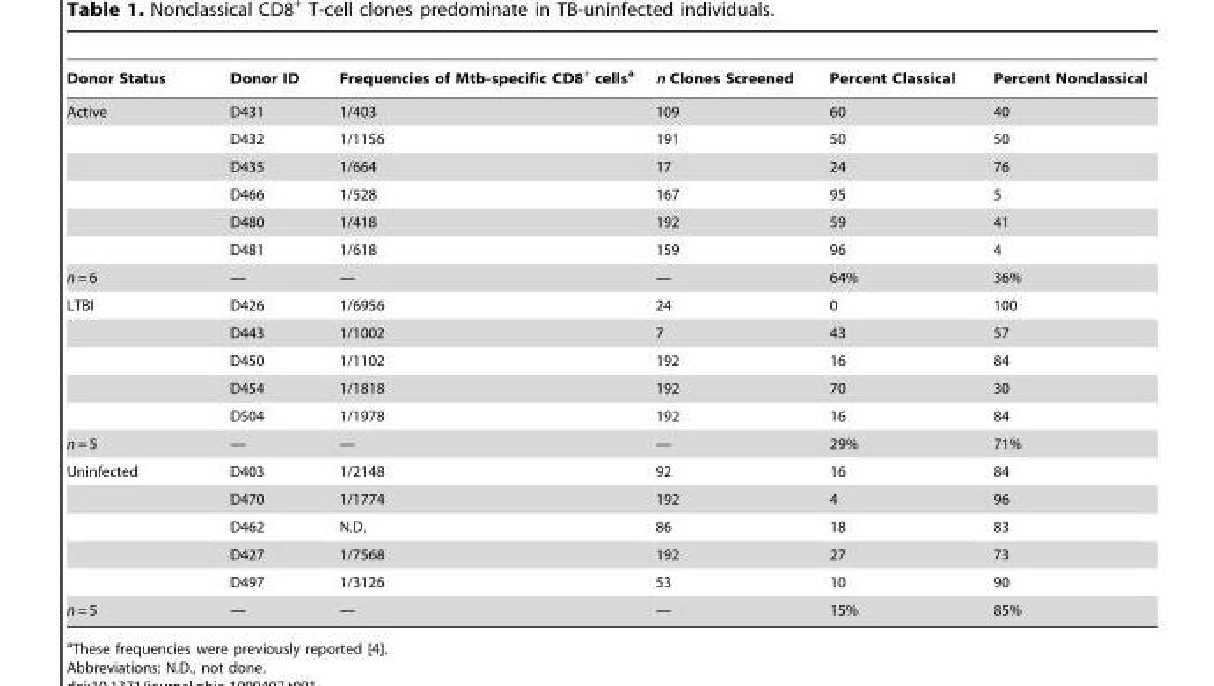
<table><thead><tr><td>Donor Status</td><td>Donor ID</td><td>Frequencies of Mtb-specific CD8<sup>+</sup> cells<sup>a</sup></td><td>n Clones Screened</td><td>Percent Classical</td><td>Percent Nonclassical</td></tr></thead><tbody><tr><td rowspan="6">Active</td><td>D431</td><td>1/403</td><td>109</td><td>60</td><td>40</td></tr><tr><td>D432</td><td>1/1156</td><td>191</td><td>50</td><td>50</td></tr><tr><td>D435</td><td>1/664</td><td>17</td><td>24</td><td>76</td></tr><tr><td>D466</td><td>1/528</td><td>167</td><td>95</td><td>5</td></tr><tr><td>D480</td><td>1/418</td><td>192</td><td>59</td><td>41</td></tr><tr><td>D481</td><td>1/618</td><td>159</td><td>96</td><td>4</td></tr><tr><td>n = 6</td><td>—</td><td>—</td><td>—</td><td>64%</td><td>36%</td></tr><tr><td rowspan="5">LTBI</td><td>D426</td><td>1/6956</td><td>24</td><td>0</td><td>100</td></tr><tr><td>D443</td><td>1/1002</td><td>7</td><td>43</td><td>57</td></tr><tr><td>D450</td><td>1/1102</td><td>192</td><td>16</td><td>84</td></tr><tr><td>D454</td><td>1/1818</td><td>192</td><td>70</td><td>30</td></tr><tr><td>D504</td><td>1/1978</td><td>192</td><td>16</td><td>84</td></tr><tr><td>n = 5</td><td>—</td><td>—</td><td>—</td><td>29%</td><td>71%</td></tr><tr><td rowspan="5">Uninfected</td><td>D403</td><td>1/2148</td><td>92</td><td>16</td><td>84</td></tr><tr><td>D470</td><td>1/1774</td><td>192</td><td>4</td><td>96</td></tr><tr><td>D462</td><td>N.D.</td><td>86</td><td>18</td><td>83</td></tr><tr><td>D427</td><td>1/7568</td><td>192</td><td>27</td><td>73</td></tr><tr><td>D497</td><td>1/3126</td><td>53</td><td>10</td><td>90</td></tr><tr><td>n = 5</td><td>—</td><td>—</td><td>—</td><td>15%</td><td>85%</td></tr></tbody></table>